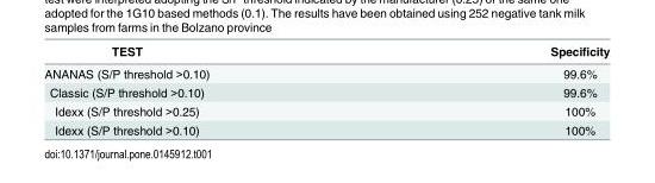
<table><thead><tr><td>TEST</td><td>Specificity</td></tr></thead><tbody><tr><td>ANANAS (S/P threshold &gt;0.10)</td><td>99.6%</td></tr><tr><td>Classic (S/P threshold &gt;0.10)</td><td>99.6%</td></tr><tr><td>Idexx (S/P threshold &gt;0.25)</td><td>100%</td></tr><tr><td>Idexx (S/P threshold &gt;0.10)</td><td>100%</td></tr></tbody></table>